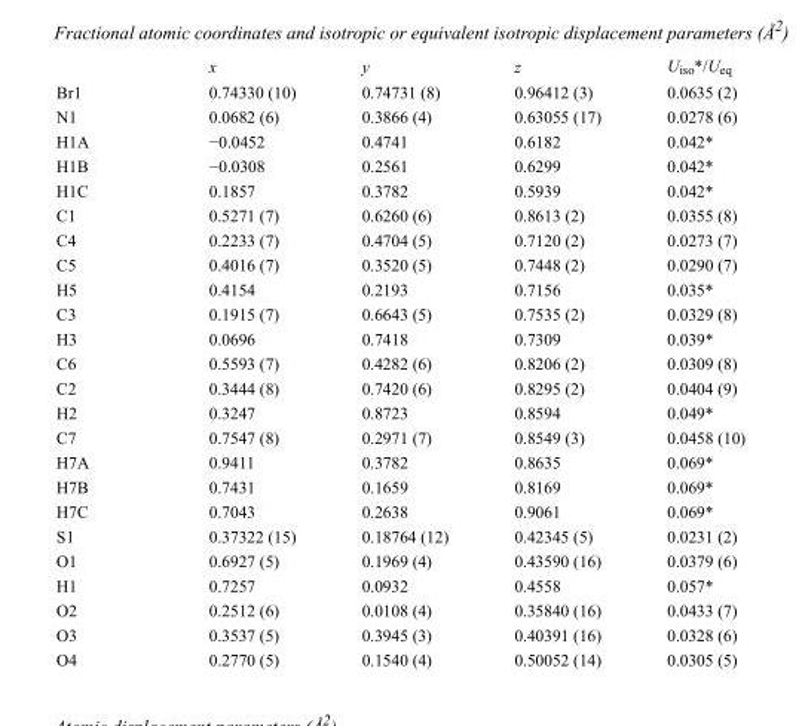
<table><thead><tr><td></td><td>x</td><td>y</td><td>z</td><td>U<sub>iso</sub>*/U<sub>eq</sub></td></tr></thead><tbody><tr><td>Br1</td><td>0.74330 (10)</td><td>0.74731 (8)</td><td>0.96412 (3)</td><td>0.0635 (2)</td></tr><tr><td>N1</td><td>0.0682 (6)</td><td>0.3866 (4)</td><td>0.63055 (17)</td><td>0.0278 (6)</td></tr><tr><td>H1A</td><td>−0.0452</td><td>0.4741</td><td>0.6182</td><td>0.042*</td></tr><tr><td>H1B</td><td>−0.0308</td><td>0.2561</td><td>0.6299</td><td>0.042*</td></tr><tr><td>H1C</td><td>0.1857</td><td>0.3782</td><td>0.5939</td><td>0.042*</td></tr><tr><td>C1</td><td>0.5271 (7)</td><td>0.6260 (6)</td><td>0.8613 (2)</td><td>0.0355 (8)</td></tr><tr><td>C4</td><td>0.2233 (7)</td><td>0.4704 (5)</td><td>0.7120 (2)</td><td>0.0273 (7)</td></tr><tr><td>C5</td><td>0.4016 (7)</td><td>0.3520 (5)</td><td>0.7448 (2)</td><td>0.0290 (7)</td></tr><tr><td>H5</td><td>0.4154</td><td>0.2193</td><td>0.7156</td><td>0.035*</td></tr><tr><td>C3</td><td>0.1915 (7)</td><td>0.6643 (5)</td><td>0.7535 (2)</td><td>0.0329 (8)</td></tr><tr><td>H3</td><td>0.0696</td><td>0.7418</td><td>0.7309</td><td>0.039*</td></tr><tr><td>C6</td><td>0.5593 (7)</td><td>0.4282 (6)</td><td>0.8206 (2)</td><td>0.0309 (8)</td></tr><tr><td>C2</td><td>0.3444 (8)</td><td>0.7420 (6)</td><td>0.8295 (2)</td><td>0.0404 (9)</td></tr><tr><td>H2</td><td>0.3247</td><td>0.8723</td><td>0.8594</td><td>0.049*</td></tr><tr><td>C7</td><td>0.7547 (8)</td><td>0.2971 (7)</td><td>0.8549 (3)</td><td>0.0458 (10)</td></tr><tr><td>H7A</td><td>0.9411</td><td>0.3782</td><td>0.8635</td><td>0.069*</td></tr><tr><td>H7B</td><td>0.7431</td><td>0.1659</td><td>0.8169</td><td>0.069*</td></tr><tr><td>H7C</td><td>0.7043</td><td>0.2638</td><td>0.9061</td><td>0.069*</td></tr><tr><td>S1</td><td>0.37322 (15)</td><td>0.18764 (12)</td><td>0.42345 (5)</td><td>0.0231 (2)</td></tr><tr><td>O1</td><td>0.6927 (5)</td><td>0.1969 (4)</td><td>0.43590 (16)</td><td>0.0379 (6)</td></tr><tr><td>H1</td><td>0.7257</td><td>0.0932</td><td>0.4558</td><td>0.057*</td></tr><tr><td>O2</td><td>0.2512 (6)</td><td>0.0108 (4)</td><td>0.35840 (16)</td><td>0.0433 (7)</td></tr><tr><td>O3</td><td>0.3537 (5)</td><td>0.3945 (3)</td><td>0.40391 (16)</td><td>0.0328 (6)</td></tr><tr><td>O4</td><td>0.2770 (5)</td><td>0.1540 (4)</td><td>0.50052 (14)</td><td>0.0305 (5)</td></tr></tbody></table>